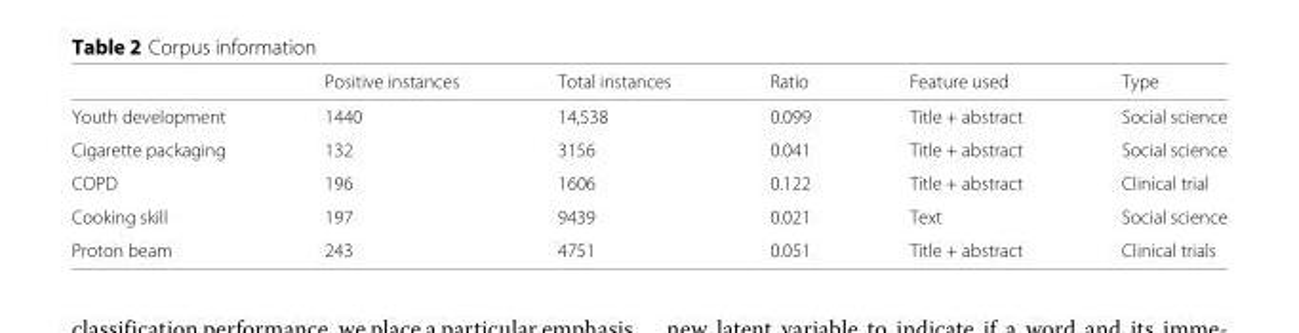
<table><thead><tr><td></td><td>Positive instances</td><td>Total instances</td><td>Ratio</td><td>Feature used</td><td>Type</td></tr></thead><tbody><tr><td>Youth development</td><td>1440</td><td>14,538</td><td>0.099</td><td>Title + abstract</td><td>Social science</td></tr><tr><td>Cigarette packaging</td><td>132</td><td>3156</td><td>0.041</td><td>Title + abstract</td><td>Social science</td></tr><tr><td>COPD</td><td>196</td><td>1606</td><td>0.122</td><td>Title + abstract</td><td>Clinical trial</td></tr><tr><td>Cooking skill</td><td>197</td><td>9439</td><td>0.021</td><td>Text</td><td>Social science</td></tr><tr><td>Proton beam</td><td>243</td><td>4751</td><td>0.051</td><td>Title + abstract</td><td>Clinical trials</td></tr></tbody></table>